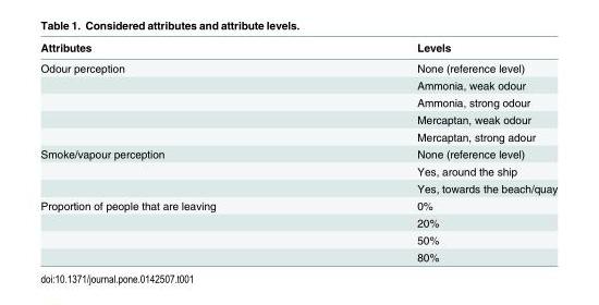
<table><thead><tr><td>Attributes</td><td>Levels</td></tr></thead><tbody><tr><td rowspan="5">Odour perception</td><td>None (reference level)</td></tr><tr><td>Ammonia, weak odour</td></tr><tr><td>Ammonia, strong odour</td></tr><tr><td>Mercaptan, weak odour</td></tr><tr><td>Mercaptan, strong adour</td></tr><tr><td rowspan="3">Smoke/vapour perception</td><td>None (reference level)</td></tr><tr><td>Yes, around the ship</td></tr><tr><td>Yes, towards the beach/quay</td></tr><tr><td rowspan="4">Proportion of people that are leaving</td><td>0%</td></tr><tr><td>20%</td></tr><tr><td>50%</td></tr><tr><td>80%</td></tr></tbody></table>